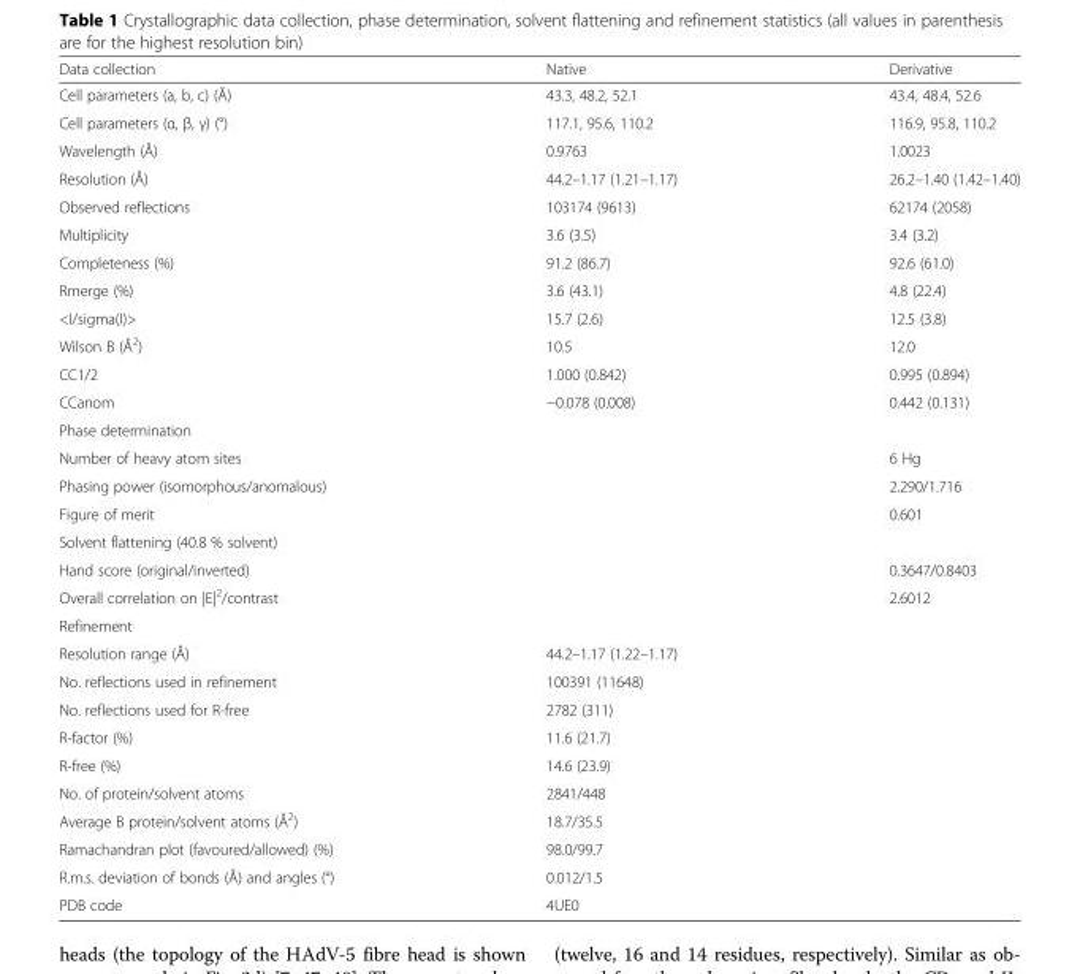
<table><thead><tr><td>Data collection</td><td>Native</td><td>Derivative</td></tr></thead><tbody><tr><td>Cell parameters (a, b, c) (Å)</td><td>43.3, 48.2, 52.1</td><td>43.4, 48.4, 52.6</td></tr><tr><td>Cell parameters (α, β, γ) (°)</td><td>117.1, 95.6, 110.2</td><td>116.9, 95.8, 110.2</td></tr><tr><td>Wavelength (Å)</td><td>0.9763</td><td>1.0023</td></tr><tr><td>Resolution (Å)</td><td>44.2–1.17 (1.21–1.17)</td><td>26.2–1.40 (1.42–1.40)</td></tr><tr><td>Observed reflections</td><td>103174 (9613)</td><td>62174 (2058)</td></tr><tr><td>Multiplicity</td><td>3.6 (3.5)</td><td>3.4 (3.2)</td></tr><tr><td>Completeness (%)</td><td>91.2 (86.7)</td><td>92.6 (61.0)</td></tr><tr><td>Rmerge (%)</td><td>3.6 (43.1)</td><td>4.8 (22.4)</td></tr><tr><td>&lt;I/sigma(I)&gt;</td><td>15.7 (2.6)</td><td>12.5 (3.8)</td></tr><tr><td>Wilson B (Å<sup>2</sup>)</td><td>10.5</td><td>12.0</td></tr><tr><td>CC1/2</td><td>1.000 (0.842)</td><td>0.995 (0.894)</td></tr><tr><td>CCanom</td><td>−0.078 (0.008)</td><td>0.442 (0.131)</td></tr><tr><td colspan="3">Phase determination</td></tr><tr><td>Number of heavy atom sites</td><td></td><td>6 Hg</td></tr><tr><td>Phasing power (isomorphous/anomalous)</td><td></td><td>2.290/1.716</td></tr><tr><td>Figure of merit</td><td></td><td>0.601</td></tr><tr><td colspan="3">Solvent flattening (40.8 % solvent)</td></tr><tr><td>Hand score (original/inverted)</td><td></td><td>0.3647/0.8403</td></tr><tr><td>Overall correlation on |E|<sup>2</sup>/contrast</td><td></td><td>2.6012</td></tr><tr><td colspan="3">Refinement</td></tr><tr><td>Resolution range (Å)</td><td>44.2–1.17 (1.22–1.17)</td><td></td></tr><tr><td>No. reflections used in refinement</td><td>100391 (11648)</td><td></td></tr><tr><td>No. reflections used for R-free</td><td>2782 (311)</td><td></td></tr><tr><td>R-factor (%)</td><td>11.6 (21.7)</td><td></td></tr><tr><td>R-free (%)</td><td>14.6 (23.9)</td><td></td></tr><tr><td>No. of protein/solvent atoms</td><td>2841/448</td><td></td></tr><tr><td>Average B protein/solvent atoms (Å<sup>2</sup>)</td><td>18.7/35.5</td><td></td></tr><tr><td>Ramachandran plot (favoured/allowed) (%)</td><td>98.0/99.7</td><td></td></tr><tr><td>R.m.s. deviation of bonds (Å) and angles (°)</td><td>0.012/1.5</td><td></td></tr><tr><td>PDB code</td><td>4UE0</td><td></td></tr></tbody></table>